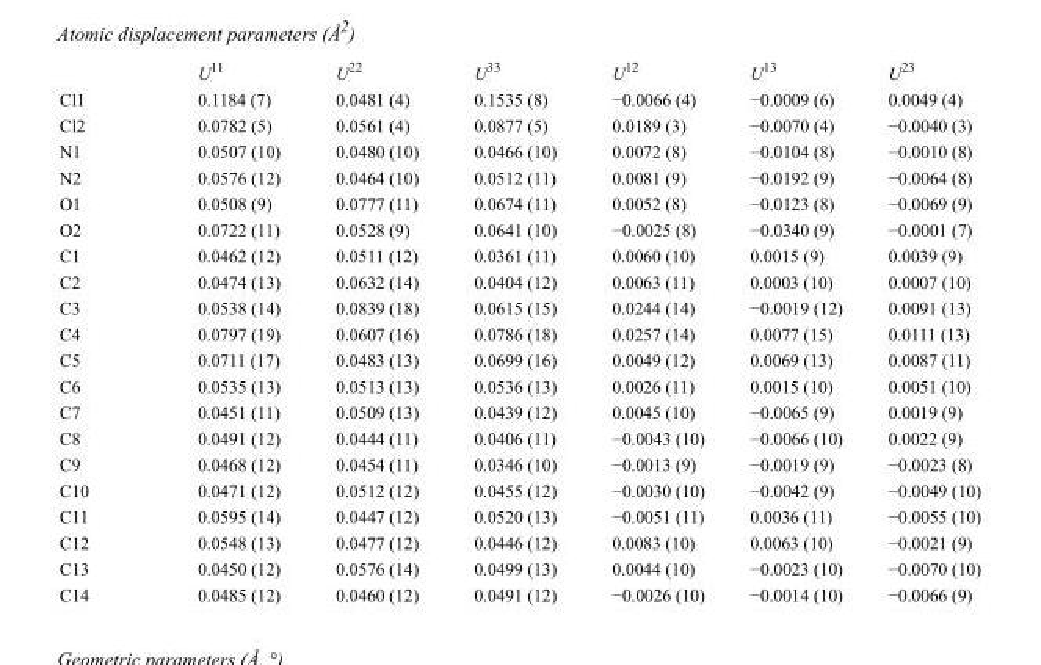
<table><thead><tr><td></td><td>U<sup>11</sup></td><td>U<sup>22</sup></td><td>U<sup>33</sup></td><td>U<sup>12</sup></td><td>U<sup>13</sup></td><td>U<sup>23</sup></td></tr></thead><tbody><tr><td>Cl1</td><td>0.1184 (7)</td><td>0.0481 (4)</td><td>0.1535 (8)</td><td>−0.0066 (4)</td><td>−0.0009 (6)</td><td>0.0049 (4)</td></tr><tr><td>Cl2</td><td>0.0782 (5)</td><td>0.0561 (4)</td><td>0.0877 (5)</td><td>0.0189 (3)</td><td>−0.0070 (4)</td><td>−0.0040 (3)</td></tr><tr><td>N1</td><td>0.0507 (10)</td><td>0.0480 (10)</td><td>0.0466 (10)</td><td>0.0072 (8)</td><td>−0.0104 (8)</td><td>−0.0010 (8)</td></tr><tr><td>N2</td><td>0.0576 (12)</td><td>0.0464 (10)</td><td>0.0512 (11)</td><td>0.0081 (9)</td><td>−0.0192 (9)</td><td>−0.0064 (8)</td></tr><tr><td>O1</td><td>0.0508 (9)</td><td>0.0777 (11)</td><td>0.0674 (11)</td><td>0.0052 (8)</td><td>−0.0123 (8)</td><td>−0.0069 (9)</td></tr><tr><td>O2</td><td>0.0722 (11)</td><td>0.0528 (9)</td><td>0.0641 (10)</td><td>−0.0025 (8)</td><td>−0.0340 (9)</td><td>−0.0001 (7)</td></tr><tr><td>C1</td><td>0.0462 (12)</td><td>0.0511 (12)</td><td>0.0361 (11)</td><td>0.0060 (10)</td><td>0.0015 (9)</td><td>0.0039 (9)</td></tr><tr><td>C2</td><td>0.0474 (13)</td><td>0.0632 (14)</td><td>0.0404 (12)</td><td>0.0063 (11)</td><td>0.0003 (10)</td><td>0.0007 (10)</td></tr><tr><td>C3</td><td>0.0538 (14)</td><td>0.0839 (18)</td><td>0.0615 (15)</td><td>0.0244 (14)</td><td>−0.0019 (12)</td><td>0.0091 (13)</td></tr><tr><td>C4</td><td>0.0797 (19)</td><td>0.0607 (16)</td><td>0.0786 (18)</td><td>0.0257 (14)</td><td>0.0077 (15)</td><td>0.0111 (13)</td></tr><tr><td>C5</td><td>0.0711 (17)</td><td>0.0483 (13)</td><td>0.0699 (16)</td><td>0.0049 (12)</td><td>0.0069 (13)</td><td>0.0087 (11)</td></tr><tr><td>C6</td><td>0.0535 (13)</td><td>0.0513 (13)</td><td>0.0536 (13)</td><td>0.0026 (11)</td><td>0.0015 (10)</td><td>0.0051 (10)</td></tr><tr><td>C7</td><td>0.0451 (11)</td><td>0.0509 (13)</td><td>0.0439 (12)</td><td>0.0045 (10)</td><td>−0.0065 (9)</td><td>0.0019 (9)</td></tr><tr><td>C8</td><td>0.0491 (12)</td><td>0.0444 (11)</td><td>0.0406 (11)</td><td>−0.0043 (10)</td><td>−0.0066 (10)</td><td>0.0022 (9)</td></tr><tr><td>C9</td><td>0.0468 (12)</td><td>0.0454 (11)</td><td>0.0346 (10)</td><td>−0.0013 (9)</td><td>−0.0019 (9)</td><td>−0.0023 (8)</td></tr><tr><td>C10</td><td>0.0471 (12)</td><td>0.0512 (12)</td><td>0.0455 (12)</td><td>−0.0030 (10)</td><td>−0.0042 (9)</td><td>−0.0049 (10)</td></tr><tr><td>C11</td><td>0.0595 (14)</td><td>0.0447 (12)</td><td>0.0520 (13)</td><td>−0.0051 (11)</td><td>0.0036 (11)</td><td>−0.0055 (10)</td></tr><tr><td>C12</td><td>0.0548 (13)</td><td>0.0477 (12)</td><td>0.0446 (12)</td><td>0.0083 (10)</td><td>0.0063 (10)</td><td>−0.0021 (9)</td></tr><tr><td>C13</td><td>0.0450 (12)</td><td>0.0576 (14)</td><td>0.0499 (13)</td><td>0.0044 (10)</td><td>−0.0023 (10)</td><td>−0.0070 (10)</td></tr><tr><td>C14</td><td>0.0485 (12)</td><td>0.0460 (12)</td><td>0.0491 (12)</td><td>−0.0026 (10)</td><td>−0.0014 (10)</td><td>−0.0066 (9)</td></tr></tbody></table>